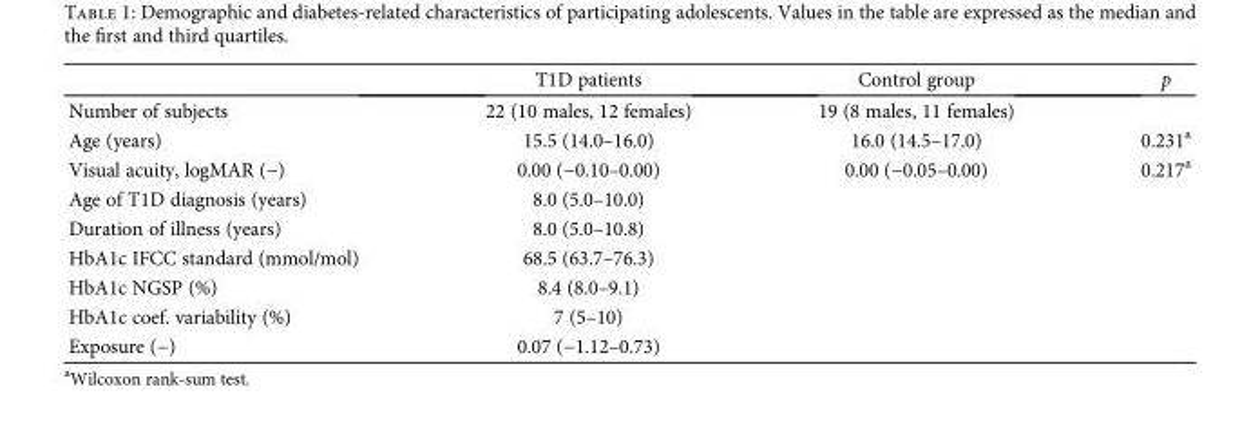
<table><thead><tr><td></td><td>T1D patients</td><td>Control group</td><td>p</td></tr></thead><tbody><tr><td>Number of subjects</td><td>22 (10 males, 12 females)</td><td>19 (8 males, 11 females)</td><td></td></tr><tr><td>Age (years)</td><td>15.5 (14.0–16.0)</td><td>16.0 (14.5–17.0)</td><td>0.231<sup>a</sup></td></tr><tr><td>Visual acuity, logMAR (−)</td><td>0.00 (−0.10–0.00)</td><td>0.00 (−0.05–0.00)</td><td>0.217<sup>a</sup></td></tr><tr><td>Age of T1D diagnosis (years)</td><td>8.0 (5.0–10.0)</td><td></td><td></td></tr><tr><td>Duration of illness (years)</td><td>8.0 (5.0–10.8)</td><td></td><td></td></tr><tr><td>HbA1c IFCC standard (mmol/mol)</td><td>68.5 (63.7–76.3)</td><td></td><td></td></tr><tr><td>HbA1c NGSP (%)</td><td>8.4 (8.0–9.1)</td><td></td><td></td></tr><tr><td>HbA1c coef. variability (%)</td><td>7 (5–10)</td><td></td><td></td></tr><tr><td>Exposure (−)</td><td>0.07 (−1.12–0.73)</td><td></td><td></td></tr></tbody></table>